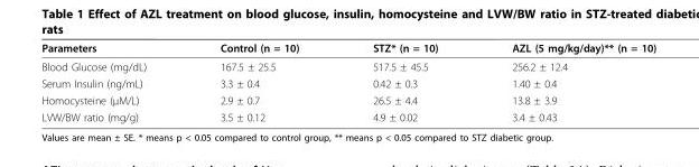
<table><thead><tr><td>Parameters</td><td>Control (n = 10)</td><td>STZ* (n = 10)</td><td>AZL (5 mg/kg/day)** (n = 10)</td></tr></thead><tbody><tr><td>Blood Glucose (mg/dL)</td><td>167.5 ± 25.5</td><td>517.5 ± 45.5</td><td>256.2 ± 12.4</td></tr><tr><td>Serum Insulin (ng/mL)</td><td>3.3 ± 0.4</td><td>0.42 ± 0.3</td><td>1.40 ± 0.4</td></tr><tr><td>Homocysteine (μM/L)</td><td>2.9 ± 0.7</td><td>26.5 ± 4.4</td><td>13.8 ± 3.9</td></tr><tr><td>LVW/BW ratio (mg/g)</td><td>3.5 ± 0.12</td><td>4.9 ± 0.02</td><td>3.4 ± 0.43</td></tr></tbody></table>